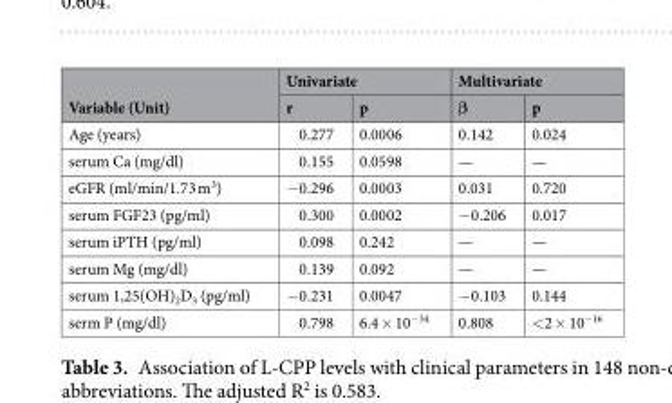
<table><thead><tr><td rowspan="2">Variable (Unit)</td><td colspan="2">Univariate</td><td colspan="2">Multivariate</td></tr><tr><td>r</td><td>p</td><td>β</td><td>p</td></tr></thead><tbody><tr><td>Age (years)</td><td>0.277</td><td>0.0006</td><td>0.142</td><td>0.024</td></tr><tr><td>serum Ca (mg/dl)</td><td>0.155</td><td>0.0598</td><td>—</td><td>—</td></tr><tr><td>eGFR (ml/min/1.73 m<sup>3</sup>)</td><td>−0.296</td><td>0.0003</td><td>0.031</td><td>0.720</td></tr><tr><td>serum FGF23 (pg/ml)</td><td>0.300</td><td>0.0002</td><td>−0.206</td><td>0.017</td></tr><tr><td>serum iPTH (pg/ml)</td><td>0.098</td><td>0.242</td><td>—</td><td>—</td></tr><tr><td>serum Mg (mg/dl)</td><td>0.139</td><td>0.092</td><td>—</td><td>—</td></tr><tr><td>serum 1,25(OH)<sub>2</sub>D<sub>3</sub> (pg/ml)</td><td>−0.231</td><td>0.0047</td><td>−0.103</td><td>0.144</td></tr><tr><td>serm P (mg/dl)</td><td>0.798</td><td>6.4 × 10<sup>−34</sup></td><td>0.808</td><td>&lt;2 × 10<sup>−16</sup></td></tr></tbody></table>